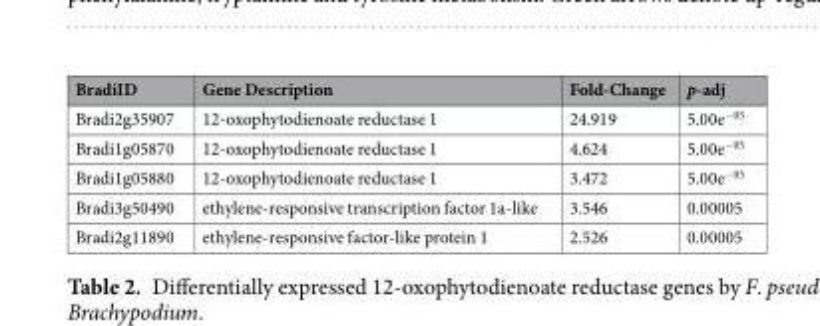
<table><thead><tr><td>BradiID</td><td>Gene Description</td><td>Fold-Change</td><td>p-adj</td></tr></thead><tbody><tr><td>Bradi2g35907</td><td>12-oxophytodienoate reductase 1</td><td>24.919</td><td>5.00e<sup>−05</sup></td></tr><tr><td>Bradi1g05870</td><td>12-oxophytodienoate reductase 1</td><td>4.624</td><td>5.00e<sup>−05</sup></td></tr><tr><td>Bradi1g05880</td><td>12-oxophytodienoate reductase 1</td><td>3.472</td><td>5.00e<sup>−05</sup></td></tr><tr><td>Bradi3g50490</td><td>ethylene-responsive transcription factor 1a-like</td><td>3.546</td><td>0.00005</td></tr><tr><td>Bradi2g11890</td><td>ethylene-responsive factor-like protein 1</td><td>2.526</td><td>0.00005</td></tr></tbody></table>